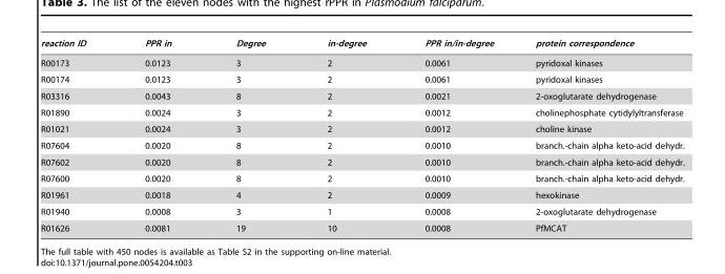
<table><thead><tr><td>reaction ID</td><td>PPR in</td><td>Degree</td><td>in-degree</td><td>PPR in/in-degree</td><td>protein correspondence</td></tr></thead><tbody><tr><td>R00173</td><td>0.0123</td><td>3</td><td>2</td><td>0.0061</td><td>pyridoxal kinases</td></tr><tr><td>R00174</td><td>0.0123</td><td>3</td><td>2</td><td>0.0061</td><td>pyridoxal kinases</td></tr><tr><td>R03316</td><td>0.0043</td><td>8</td><td>2</td><td>0.0021</td><td>2-oxoglutarate dehydrogenase</td></tr><tr><td>R01890</td><td>0.0024</td><td>3</td><td>2</td><td>0.0012</td><td>cholinephosphate cytidylyltransferase</td></tr><tr><td>R01021</td><td>0.0024</td><td>3</td><td>2</td><td>0.0012</td><td>choline kinase</td></tr><tr><td>R07604</td><td>0.0020</td><td>8</td><td>2</td><td>0.0010</td><td>branch.-chain alpha keto-acid dehydr.</td></tr><tr><td>R07602</td><td>0.0020</td><td>8</td><td>2</td><td>0.0010</td><td>branch.-chain alpha keto-acid dehydr.</td></tr><tr><td>R07600</td><td>0.0020</td><td>8</td><td>2</td><td>0.0010</td><td>branch.-chain alpha keto-acid dehydr.</td></tr><tr><td>R01961</td><td>0.0018</td><td>4</td><td>2</td><td>0.0009</td><td>hexokinase</td></tr><tr><td>R01940</td><td>0.0008</td><td>3</td><td>1</td><td>0.0008</td><td>2-oxoglutarate dehydrogenase</td></tr><tr><td>R01626</td><td>0.0081</td><td>19</td><td>10</td><td>0.0008</td><td>PfMCAT</td></tr></tbody></table>